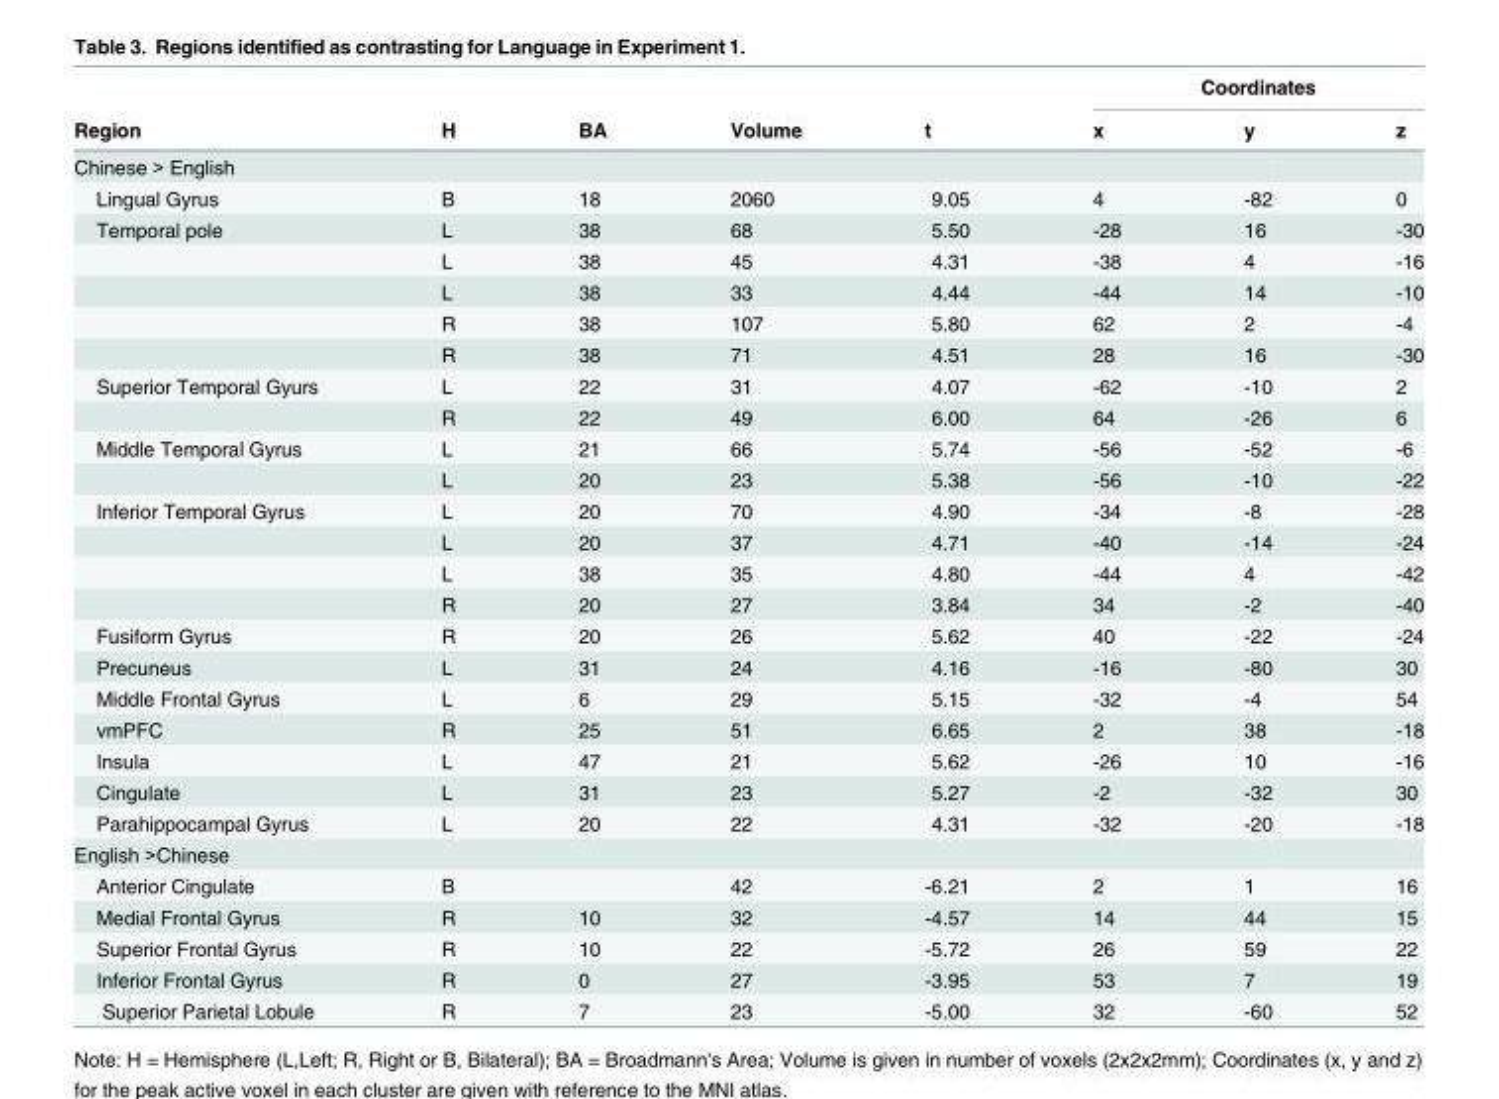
<table><thead><tr><td rowspan="2">Region</td><td rowspan="2">H</td><td rowspan="2">BA</td><td rowspan="2">Volume</td><td rowspan="2">t</td><td colspan="3">Coordinates</td></tr><tr><td>x</td><td>y</td><td>z</td></tr></thead><tbody><tr><td colspan="8">Chinese &gt; English</td></tr><tr><td>Lingual Gyrus</td><td>B</td><td>18</td><td>2060</td><td>9.05</td><td>4</td><td>-82</td><td>0</td></tr><tr><td rowspan="5">Temporal pole</td><td>L</td><td>38</td><td>68</td><td>5.50</td><td>-28</td><td>16</td><td>-30</td></tr><tr><td>L</td><td>38</td><td>45</td><td>4.31</td><td>-38</td><td>4</td><td>-16</td></tr><tr><td>L</td><td>38</td><td>33</td><td>4.44</td><td>-44</td><td>14</td><td>-10</td></tr><tr><td>R</td><td>38</td><td>107</td><td>5.80</td><td>62</td><td>2</td><td>-4</td></tr><tr><td>R</td><td>38</td><td>71</td><td>4.51</td><td>28</td><td>16</td><td>-30</td></tr><tr><td rowspan="2">Superior Temporal Gyurs</td><td>L</td><td>22</td><td>31</td><td>4.07</td><td>-62</td><td>-10</td><td>2</td></tr><tr><td>R</td><td>22</td><td>49</td><td>6.00</td><td>64</td><td>-26</td><td>6</td></tr><tr><td rowspan="2">Middle Temporal Gyrus</td><td>L</td><td>21</td><td>66</td><td>5.74</td><td>-56</td><td>-52</td><td>-6</td></tr><tr><td>L</td><td>20</td><td>23</td><td>5.38</td><td>-56</td><td>-10</td><td>-22</td></tr><tr><td rowspan="4">Inferior Temporal Gyrus</td><td>L</td><td>20</td><td>70</td><td>4.90</td><td>-34</td><td>-8</td><td>-28</td></tr><tr><td>L</td><td>20</td><td>37</td><td>4.71</td><td>-40</td><td>-14</td><td>-24</td></tr><tr><td>L</td><td>38</td><td>35</td><td>4.80</td><td>-44</td><td>4</td><td>-42</td></tr><tr><td>R</td><td>20</td><td>27</td><td>3.84</td><td>34</td><td>-2</td><td>-40</td></tr><tr><td>Fusiform Gyrus</td><td>R</td><td>20</td><td>26</td><td>5.62</td><td>40</td><td>-22</td><td>-24</td></tr><tr><td>Precuneus</td><td>L</td><td>31</td><td>24</td><td>4.16</td><td>-16</td><td>-80</td><td>30</td></tr><tr><td>Middle Frontal Gyrus</td><td>L</td><td>6</td><td>29</td><td>5.15</td><td>-32</td><td>-4</td><td>54</td></tr><tr><td>vmPFC</td><td>R</td><td>25</td><td>51</td><td>6.65</td><td>2</td><td>38</td><td>-18</td></tr><tr><td>Insula</td><td>L</td><td>47</td><td>21</td><td>5.62</td><td>-26</td><td>10</td><td>-16</td></tr><tr><td>Cingulate</td><td>L</td><td>31</td><td>23</td><td>5.27</td><td>-2</td><td>-32</td><td>30</td></tr><tr><td>Parahippocampal Gyrus</td><td>L</td><td>20</td><td>22</td><td>4.31</td><td>-32</td><td>-20</td><td>-18</td></tr><tr><td colspan="8">English &gt;Chinese</td></tr><tr><td>Anterior Cingulate</td><td>B</td><td></td><td>42</td><td>-6.21</td><td>2</td><td>1</td><td>16</td></tr><tr><td>Medial Frontal Gyrus</td><td>R</td><td>10</td><td>32</td><td>-4.57</td><td>14</td><td>44</td><td>15</td></tr><tr><td>Superior Frontal Gyrus</td><td>R</td><td>10</td><td>22</td><td>-5.72</td><td>26</td><td>59</td><td>22</td></tr><tr><td>Inferior Frontal Gyrus</td><td>R</td><td>0</td><td>27</td><td>-3.95</td><td>53</td><td>7</td><td>19</td></tr><tr><td>Superior Parietal Lobule</td><td>R</td><td>7</td><td>23</td><td>-5.00</td><td>32</td><td>-60</td><td>52</td></tr></tbody></table>